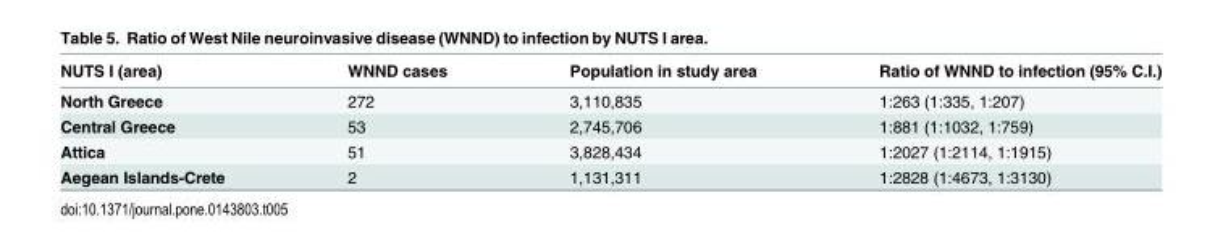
<table><thead><tr><td>NUTS I (area)</td><td>WNND cases</td><td>Population in study area</td><td>Ratio of WNND to infection (95% C.I.)</td></tr></thead><tbody><tr><td>North Greece</td><td>272</td><td>3,110,835</td><td>1:263 (1:335, 1:207)</td></tr><tr><td>Central Greece</td><td>53</td><td>2,745,706</td><td>1:881 (1:1032, 1:759)</td></tr><tr><td>Attica</td><td>51</td><td>3,828,434</td><td>1:2027 (1:2114, 1:1915)</td></tr><tr><td>Aegean Islands-Crete</td><td>2</td><td>1,131,311</td><td>1:2828 (1:4673, 1:3130)</td></tr></tbody></table>